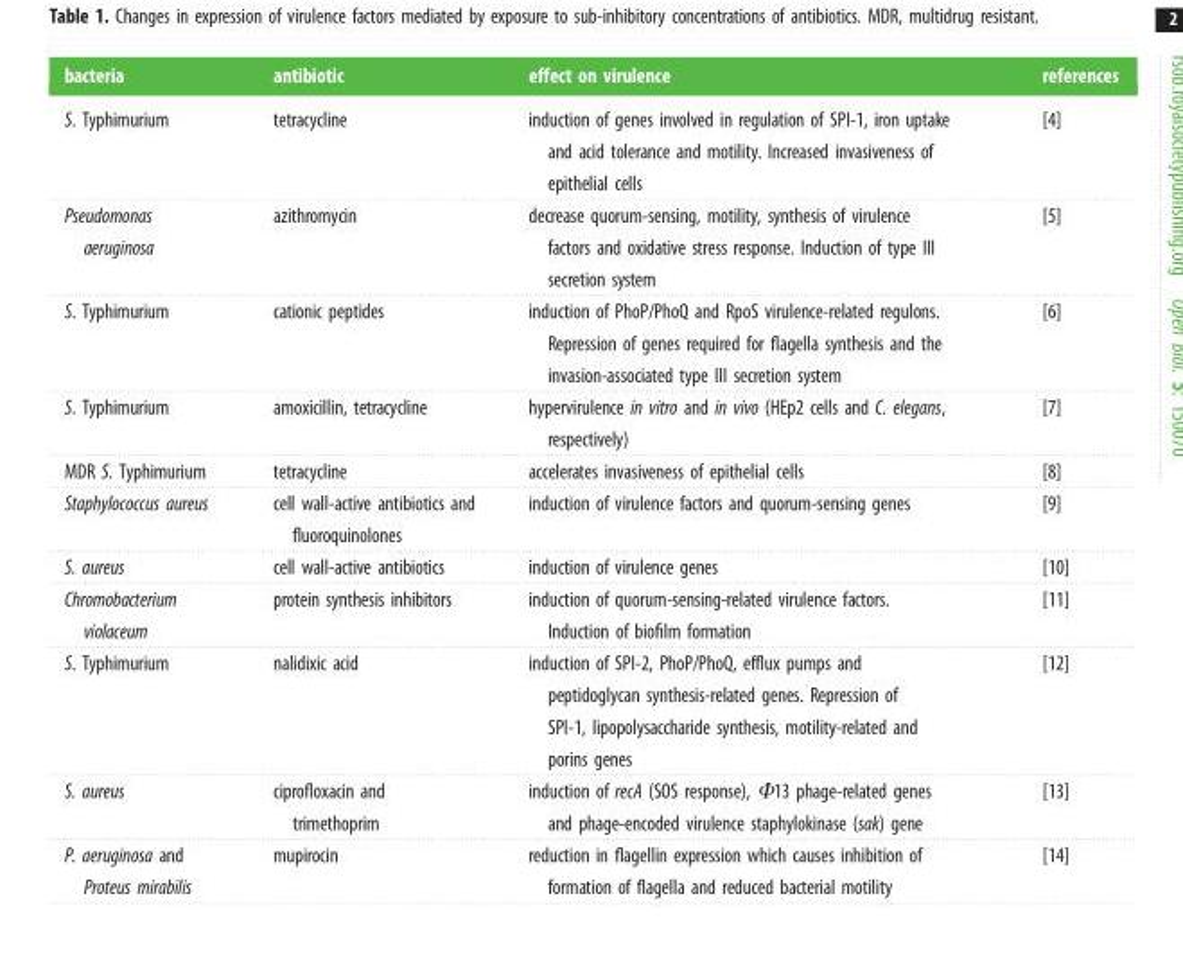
<table><thead><tr><td>bacteria</td><td>antibiotic</td><td>effect on virulence</td><td>references</td></tr></thead><tbody><tr><td>S. Typhimurium</td><td>tetracycline</td><td>induction of genes involved in regulation of SPI-1, iron uptake and acid tolerance and motility. Increased invasiveness of epithelial cells</td><td>[4]</td></tr><tr><td>Pseudomonas aeruginosa</td><td>azithromycin</td><td>decrease quorum-sensing, motility, synthesis of virulence factors and oxidative stress response. Induction of type III secretion system</td><td>[5]</td></tr><tr><td>S. Typhimurium</td><td>cationic peptides</td><td>induction of PhoP/PhoQ and RpoS virulence-related regulons. Repression of genes required for flagella synthesis and the invasion-associated type III secretion system</td><td>[6]</td></tr><tr><td>S. Typhimurium</td><td>amoxicillin, tetracycline</td><td>hypervirulence in vitro and in vivo (HEp2 cells and C. elegans, respectively)</td><td>[7]</td></tr><tr><td>MDR S. Typhimurium</td><td>tetracycline</td><td>accelerates invasiveness of epithelial cells</td><td>[8]</td></tr><tr><td>Staphylococcus aureus</td><td>cell wall-active antibiotics and fluoroquinolones</td><td>induction of virulence factors and quorum-sensing genes</td><td>[9]</td></tr><tr><td>S. aureus</td><td>cell wall-active antibiotics</td><td>induction of virulence genes</td><td>[10]</td></tr><tr><td>Chromobacterium violaceum</td><td>protein synthesis inhibitors</td><td>induction of quorum-sensing-related virulence factors. Induction of biofilm formation</td><td>[11]</td></tr><tr><td>S. Typhimurium</td><td>nalidixic acid</td><td>induction of SPI-2, PhoP/PhoQ, efflux pumps and peptidoglycan synthesis-related genes. Repression of SPI-1, lipopolysaccharide synthesis, motility-related and porins genes</td><td>[12]</td></tr><tr><td>S. aureus</td><td>ciprofloxacin and trimethoprim</td><td>induction of recA (SOS response), Φ13 phage-related genes and phage-encoded virulence staphylokinase (sak) gene</td><td>[13]</td></tr><tr><td>P. aeruginosa and Proteus mirabilis</td><td>mupirocin</td><td>reduction in flagellin expression which causes inhibition of formation of flagella and reduced bacterial motility</td><td>[14]</td></tr></tbody></table>